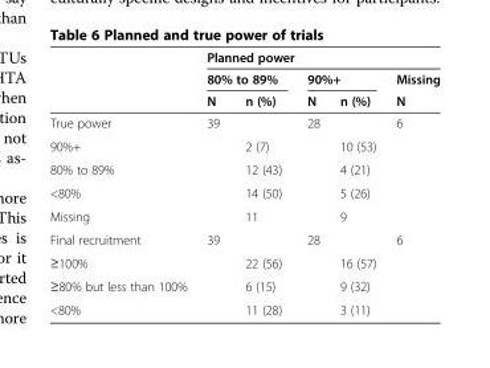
<table><thead><tr><td rowspan="3"></td><td colspan="5">Planned power</td></tr><tr><td colspan="2">80% to 89%</td><td colspan="2">90%+</td><td rowspan="2">Missing N</td></tr><tr><td>N</td><td>n (%)</td><td>N</td><td>n (%)</td></tr></thead><tbody><tr><td>True power</td><td>39</td><td></td><td>28</td><td></td><td>6</td></tr><tr><td>90%+</td><td></td><td>2 (7)</td><td></td><td>10 (53)</td><td></td></tr><tr><td>80% to 89%</td><td></td><td>12 (43)</td><td></td><td>4 (21)</td><td></td></tr><tr><td>&lt;80%</td><td></td><td>14 (50)</td><td></td><td>5 (26)</td><td></td></tr><tr><td>Missing</td><td></td><td>11</td><td></td><td>9</td><td></td></tr><tr><td>Final recruitment</td><td>39</td><td></td><td>28</td><td></td><td>6</td></tr><tr><td>≥100%</td><td></td><td>22 (56)</td><td></td><td>16 (57)</td><td></td></tr><tr><td>≥80% but less than 100%</td><td></td><td>6 (15)</td><td></td><td>9 (32)</td><td></td></tr><tr><td>&lt;80%</td><td></td><td>11 (28)</td><td></td><td>3 (11)</td><td></td></tr></tbody></table>